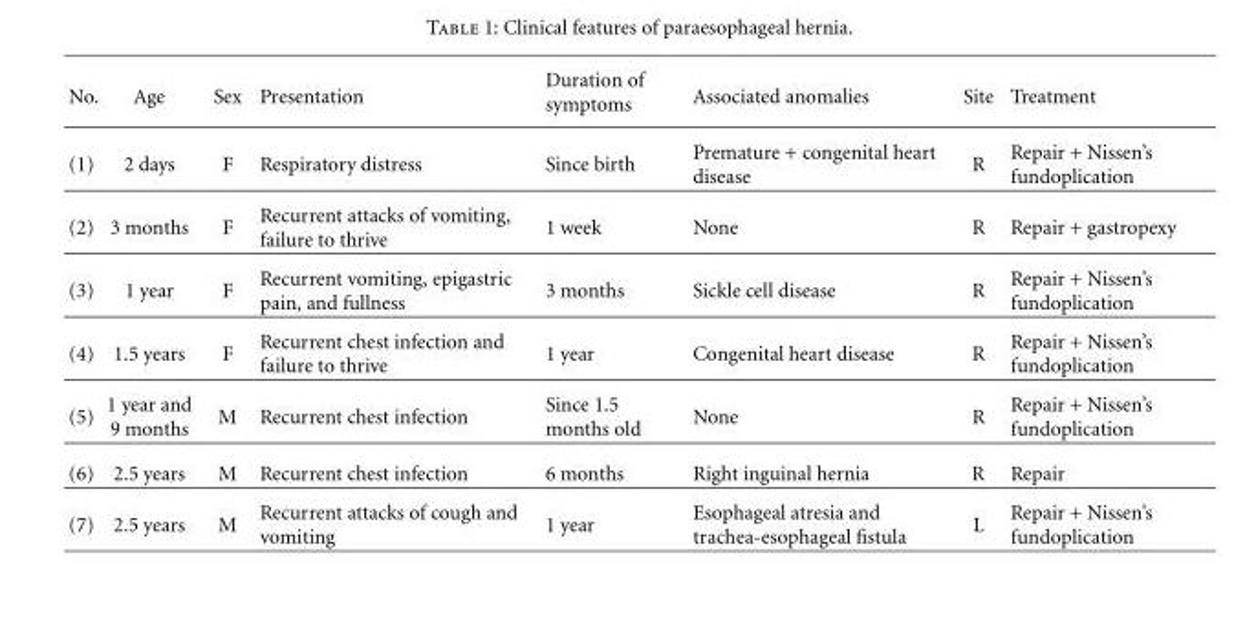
<table><thead><tr><td>No.</td><td>Age</td><td>Sex</td><td>Presentation</td><td>Duration of symptoms</td><td>Associated anomalies</td><td>Site</td><td>Treatment</td></tr></thead><tbody><tr><td>(1)</td><td>2 days</td><td>F</td><td>Respiratory distress</td><td>Since birth</td><td>Premature + congenital heart disease</td><td>R</td><td>Repair + Nissen’s fundoplication</td></tr><tr><td>(2)</td><td>3 months</td><td>F</td><td>Recurrent attacks of vomiting, failure to thrive</td><td>1 week</td><td>None</td><td>R</td><td>Repair + gastropexy</td></tr><tr><td>(3)</td><td>1 year</td><td>F</td><td>Recurrent vomiting, epigastric pain, and fullness</td><td>3 months</td><td>Sickle cell disease</td><td>R</td><td>Repair + Nissen’s fundoplication</td></tr><tr><td>(4)</td><td>1.5 years</td><td>F</td><td>Recurrent chest infection and failure to thrive</td><td>1 year</td><td>Congenital heart disease</td><td>R</td><td>Repair + Nissen’s fundoplication</td></tr><tr><td>(5)</td><td>1 year and 9 months</td><td>M</td><td>Recurrent chest infection</td><td>Since 1.5 months old</td><td>None</td><td>R</td><td>Repair + Nissen’s fundoplication</td></tr><tr><td>(6)</td><td>2.5 years</td><td>M</td><td>Recurrent chest infection</td><td>6 months</td><td>Right inguinal hernia</td><td>R</td><td>Repair</td></tr><tr><td>(7)</td><td>2.5 years</td><td>M</td><td>Recurrent attacks of cough and vomiting</td><td>1 year</td><td>Esophageal atresia and trachea-esophageal fistula</td><td>L</td><td>Repair + Nissen’s fundoplication</td></tr></tbody></table>